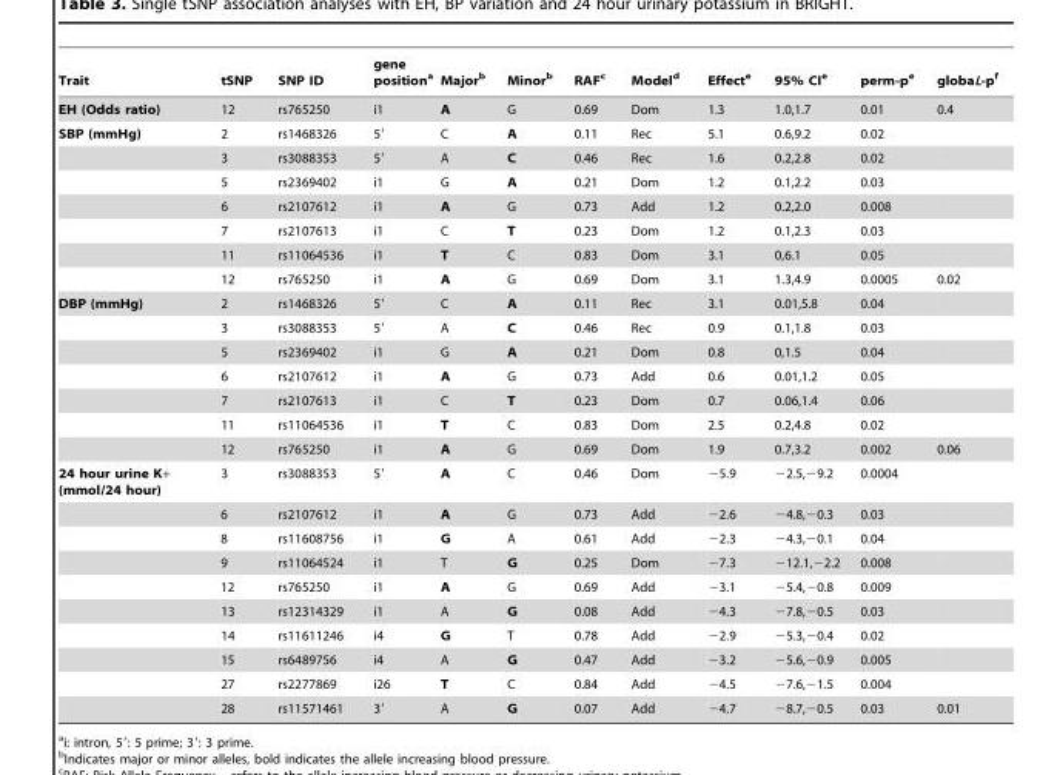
<table><thead><tr><td>Trait</td><td>tSNP</td><td>SNP ID</td><td>gene position<sup>a</sup></td><td>Major<sup>b</sup></td><td>Minor<sup>b</sup></td><td>RAF<sup>c</sup></td><td>Model<sup>d</sup></td><td>Effect<sup>e</sup></td><td>95% CI<sup>e</sup></td><td>perm-p<sup>e</sup></td><td>globaL-p<sup>f</sup></td></tr></thead><tbody><tr><td>EH (Odds ratio)</td><td>12</td><td>rs765250</td><td>i1</td><td>A</td><td>G</td><td>0.69</td><td>Dom</td><td>1.3</td><td>1.0,1.7</td><td>0.01</td><td>0.4</td></tr><tr><td rowspan="7">SBP (mmHg)</td><td>2</td><td>rs1468326</td><td>5′</td><td>C</td><td>A</td><td>0.11</td><td>Rec</td><td>5.1</td><td>0.6,9.2</td><td>0.02</td><td></td></tr><tr><td>3</td><td>rs3088353</td><td>5′</td><td>A</td><td>C</td><td>0.46</td><td>Rec</td><td>1.6</td><td>0.2,2.8</td><td>0.02</td><td></td></tr><tr><td>5</td><td>rs2369402</td><td>i1</td><td>G</td><td>A</td><td>0.21</td><td>Dom</td><td>1.2</td><td>0.1,2.2</td><td>0.03</td><td></td></tr><tr><td>6</td><td>rs2107612</td><td>i1</td><td>A</td><td>G</td><td>0.73</td><td>Add</td><td>1.2</td><td>0.2,2.0</td><td>0.008</td><td></td></tr><tr><td>7</td><td>rs2107613</td><td>i1</td><td>C</td><td>T</td><td>0.23</td><td>Dom</td><td>1.2</td><td>0.1,2.3</td><td>0.03</td><td></td></tr><tr><td>11</td><td>rs11064536</td><td>i1</td><td>T</td><td>C</td><td>0.83</td><td>Dom</td><td>3.1</td><td>0,6.1</td><td>0.05</td><td></td></tr><tr><td>12</td><td>rs765250</td><td>i1</td><td>A</td><td>G</td><td>0.69</td><td>Dom</td><td>3.1</td><td>1.3,4.9</td><td>0.0005</td><td>0.02</td></tr><tr><td rowspan="7">DBP (mmHg)</td><td>2</td><td>rs1468326</td><td>5′</td><td>C</td><td>A</td><td>0.11</td><td>Rec</td><td>3.1</td><td>0.01,5.8</td><td>0.04</td><td></td></tr><tr><td>3</td><td>rs3088353</td><td>5′</td><td>A</td><td>C</td><td>0.46</td><td>Rec</td><td>0.9</td><td>0.1,1.8</td><td>0.03</td><td></td></tr><tr><td>5</td><td>rs2369402</td><td>i1</td><td>G</td><td>A</td><td>0.21</td><td>Dom</td><td>0.8</td><td>0,1.5</td><td>0.04</td><td></td></tr><tr><td>6</td><td>rs2107612</td><td>i1</td><td>A</td><td>G</td><td>0.73</td><td>Add</td><td>0.6</td><td>0.01,1.2</td><td>0.05</td><td></td></tr><tr><td>7</td><td>rs2107613</td><td>i1</td><td>C</td><td>T</td><td>0.23</td><td>Dom</td><td>0.7</td><td>0.06,1.4</td><td>0.06</td><td></td></tr><tr><td>11</td><td>rs11064536</td><td>i1</td><td>T</td><td>C</td><td>0.83</td><td>Dom</td><td>2.5</td><td>0.2,4.8</td><td>0.02</td><td></td></tr><tr><td>12</td><td>rs765250</td><td>i1</td><td>A</td><td>G</td><td>0.69</td><td>Dom</td><td>1.9</td><td>0.7,3.2</td><td>0.002</td><td>0.06</td></tr><tr><td rowspan="10">24 hour urine K+ (mmol/24 hour)</td><td>3</td><td>rs3088353</td><td>5′</td><td>A</td><td>C</td><td>0.46</td><td>Dom</td><td>−5.9</td><td>−2.5,−9.2</td><td>0.0004</td><td></td></tr><tr><td>6</td><td>rs2107612</td><td>i1</td><td>A</td><td>G</td><td>0.73</td><td>Add</td><td>−2.6</td><td>−4.8,−0.3</td><td>0.03</td><td></td></tr><tr><td>8</td><td>rs11608756</td><td>i1</td><td>G</td><td>A</td><td>0.61</td><td>Add</td><td>−2.3</td><td>−4.3,−0.1</td><td>0.04</td><td></td></tr><tr><td>9</td><td>rs11064524</td><td>i1</td><td>T</td><td>G</td><td>0.25</td><td>Dom</td><td>−7.3</td><td>−12.1,−2.2</td><td>0.008</td><td></td></tr><tr><td>12</td><td>rs765250</td><td>i1</td><td>A</td><td>G</td><td>0.69</td><td>Add</td><td>−3.1</td><td>−5.4,−0.8</td><td>0.009</td><td></td></tr><tr><td>13</td><td>rs12314329</td><td>i1</td><td>A</td><td>G</td><td>0.08</td><td>Add</td><td>−4.3</td><td>−7.8,−0.5</td><td>0.03</td><td></td></tr><tr><td>14</td><td>rs11611246</td><td>i4</td><td>G</td><td>T</td><td>0.78</td><td>Add</td><td>−2.9</td><td>−5.3,−0.4</td><td>0.02</td><td></td></tr><tr><td>15</td><td>rs6489756</td><td>i4</td><td>A</td><td>G</td><td>0.47</td><td>Add</td><td>−3.2</td><td>−5.6,−0.9</td><td>0.005</td><td></td></tr><tr><td>27</td><td>rs2277869</td><td>i26</td><td>T</td><td>C</td><td>0.84</td><td>Add</td><td>−4.5</td><td>−7.6,−1.5</td><td>0.004</td><td></td></tr><tr><td>28</td><td>rs11571461</td><td>3′</td><td>A</td><td>G</td><td>0.07</td><td>Add</td><td>−4.7</td><td>−8.7,−0.5</td><td>0.03</td><td>0.01</td></tr></tbody></table>